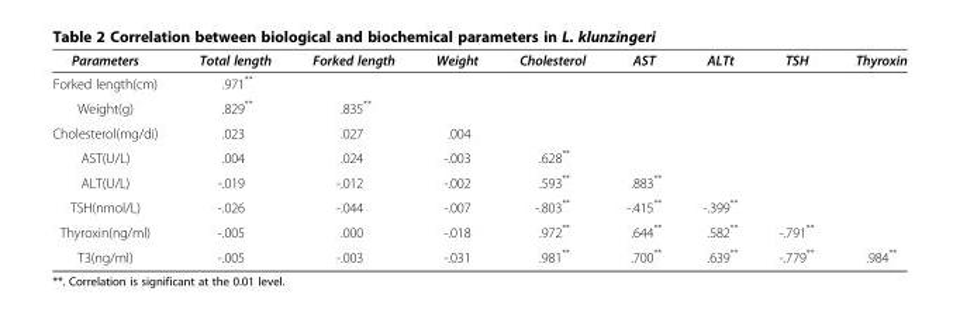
<table><thead><tr><td>Parameters</td><td>Total length</td><td>Forked length</td><td>Weight</td><td>Cholesterol</td><td>AST</td><td>ALTt</td><td>TSH</td><td>Thyroxin</td></tr></thead><tbody><tr><td>Forked length(cm)</td><td>.971**</td><td></td><td></td><td></td><td></td><td></td><td></td><td></td></tr><tr><td>Weight(g)</td><td>.829**</td><td>.835**</td><td></td><td></td><td></td><td></td><td></td><td></td></tr><tr><td>Cholesterol(mg/di)</td><td>.023</td><td>.027</td><td>.004</td><td></td><td></td><td></td><td></td><td></td></tr><tr><td>AST(U/L)</td><td>.004</td><td>.024</td><td>-.003</td><td>.628**</td><td></td><td></td><td></td><td></td></tr><tr><td>ALT(U/L)</td><td>-.019</td><td>-.012</td><td>-.002</td><td>.593**</td><td>.883**</td><td></td><td></td><td></td></tr><tr><td>TSH(nmol/L)</td><td>-.026</td><td>-.044</td><td>-.007</td><td>-.803**</td><td>-.415**</td><td>-.399**</td><td></td><td></td></tr><tr><td>Thyroxin(ng/ml)</td><td>-.005</td><td>.000</td><td>-.018</td><td>.972**</td><td>.644**</td><td>.582**</td><td>-.791**</td><td></td></tr><tr><td>T3(ng/ml)</td><td>-.005</td><td>-.003</td><td>-.031</td><td>.981**</td><td>.700**</td><td>.639**</td><td>-.779**</td><td>.984**</td></tr></tbody></table>